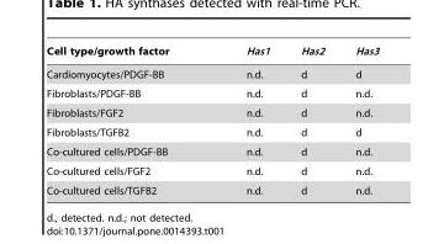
<table><thead><tr><td>Cell type/growth factor</td><td>Has1</td><td>Has2</td><td>Has3</td></tr></thead><tbody><tr><td>Cardiomyocytes/PDGF-BB</td><td>n.d.</td><td>d</td><td>d</td></tr><tr><td>Fibroblasts/PDGF-BB</td><td>n.d.</td><td>d</td><td>n.d.</td></tr><tr><td>Fibroblasts/FGF2</td><td>n.d.</td><td>d</td><td>n.d.</td></tr><tr><td>Fibroblasts/TGFB2</td><td>n.d.</td><td>d</td><td>d</td></tr><tr><td>Co-cultured cells/PDGF-BB</td><td>n.d.</td><td>d</td><td>n.d.</td></tr><tr><td>Co-cultured cells/FGF2</td><td>n.d.</td><td>d</td><td>n.d.</td></tr><tr><td>Co-cultured cells/TGFB2</td><td>n.d.</td><td>d</td><td>n.d.</td></tr></tbody></table>